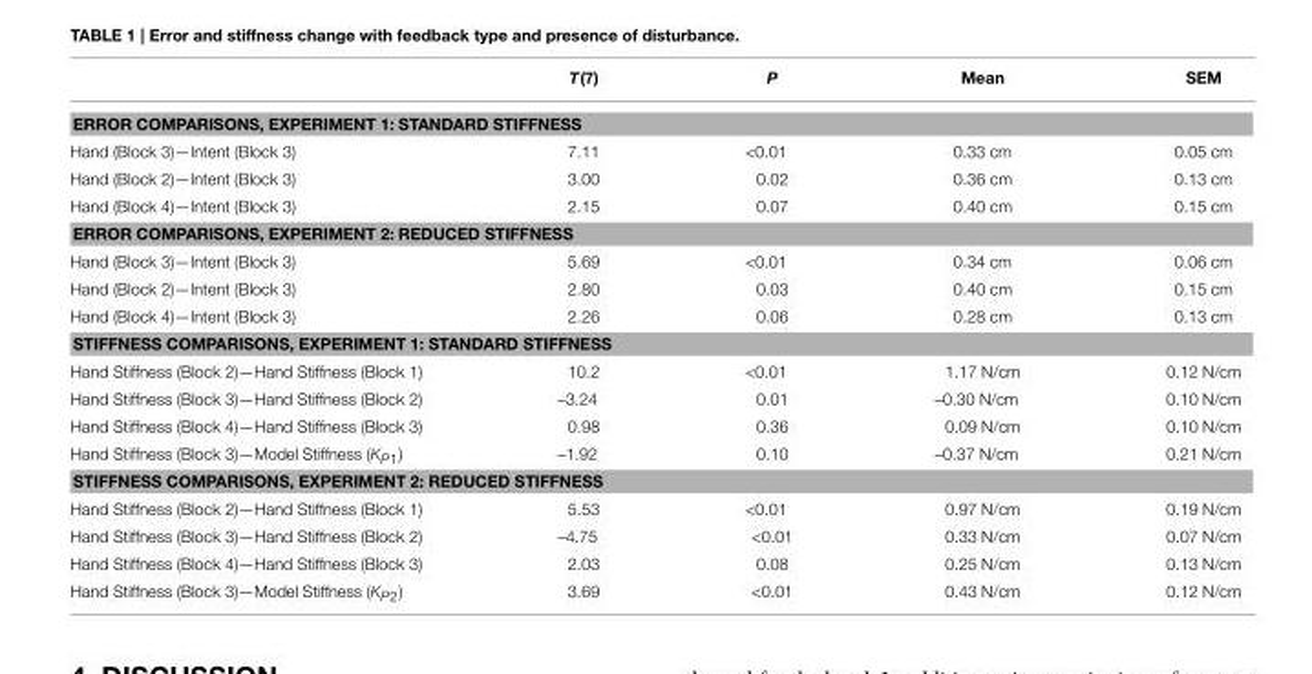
<table><thead><tr><td></td><td>T(7)</td><td>P</td><td>Mean</td><td>SEM</td></tr></thead><tbody><tr><td colspan="5">ERROR COMPARISONS, EXPERIMENT 1: STANDARD STIFFNESS</td></tr><tr><td>Hand (Block 3)—Intent (Block 3)</td><td>7.11</td><td>&lt;0.01</td><td>0.33 cm</td><td>0.05 cm</td></tr><tr><td>Hand (Block 2)—Intent (Block 3)</td><td>3.00</td><td>0.02</td><td>0.36 cm</td><td>0.13 cm</td></tr><tr><td>Hand (Block 4)—Intent (Block 3)</td><td>2.15</td><td>0.07</td><td>0.40 cm</td><td>0.15 cm</td></tr><tr><td colspan="5">ERROR COMPARISONS, EXPERIMENT 2: REDUCED STIFFNESS</td></tr><tr><td>Hand (Block 3)—Intent (Block 3)</td><td>5.69</td><td>&lt;0.01</td><td>0.34 cm</td><td>0.06 cm</td></tr><tr><td>Hand (Block 2)—Intent (Block 3)</td><td>2.80</td><td>0.03</td><td>0.40 cm</td><td>0.15 cm</td></tr><tr><td>Hand (Block 4)—Intent (Block 3)</td><td>2.26</td><td>0.06</td><td>0.28 cm</td><td>0.13 cm</td></tr><tr><td colspan="5">STIFFNESS COMPARISONS, EXPERIMENT 1: STANDARD STIFFNESS</td></tr><tr><td>Hand Stiffness (Block 2)—Hand Stiffness (Block 1)</td><td>10.2</td><td>&lt;0.01</td><td>1.17 N/cm</td><td>0.12 N/cm</td></tr><tr><td>Hand Stiffness (Block 3)—Hand Stiffness (Block 2)</td><td>–3.24</td><td>0.01</td><td>–0.30 N/cm</td><td>0.10 N/cm</td></tr><tr><td>Hand Stiffness (Block 4)—Hand Stiffness (Block 3)</td><td>0.98</td><td>0.36</td><td>0.09 N/cm</td><td>0.10 N/cm</td></tr><tr><td>Hand Stiffness (Block 3)—Model Stiffness (K<sub>P1</sub>)</td><td>–1.92</td><td>0.10</td><td>–0.37 N/cm</td><td>0.21 N/cm</td></tr><tr><td colspan="5">STIFFNESS COMPARISONS, EXPERIMENT 2: REDUCED STIFFNESS</td></tr><tr><td>Hand Stiffness (Block 2)—Hand Stiffness (Block 1)</td><td>5.53</td><td>&lt;0.01</td><td>0.97 N/cm</td><td>0.19 N/cm</td></tr><tr><td>Hand Stiffness (Block 3)—Hand Stiffness (Block 2)</td><td>–4.75</td><td>&lt;0.01</td><td>0.33 N/cm</td><td>0.07 N/cm</td></tr><tr><td>Hand Stiffness (Block 4)—Hand Stiffness (Block 3)</td><td>2.03</td><td>0.08</td><td>0.25 N/cm</td><td>0.13 N/cm</td></tr><tr><td>Hand Stiffness (Block 3)—Model Stiffness (K<sub>P2</sub>)</td><td>3.69</td><td>&lt;0.01</td><td>0.43 N/cm</td><td>0.12 N/cm</td></tr></tbody></table>